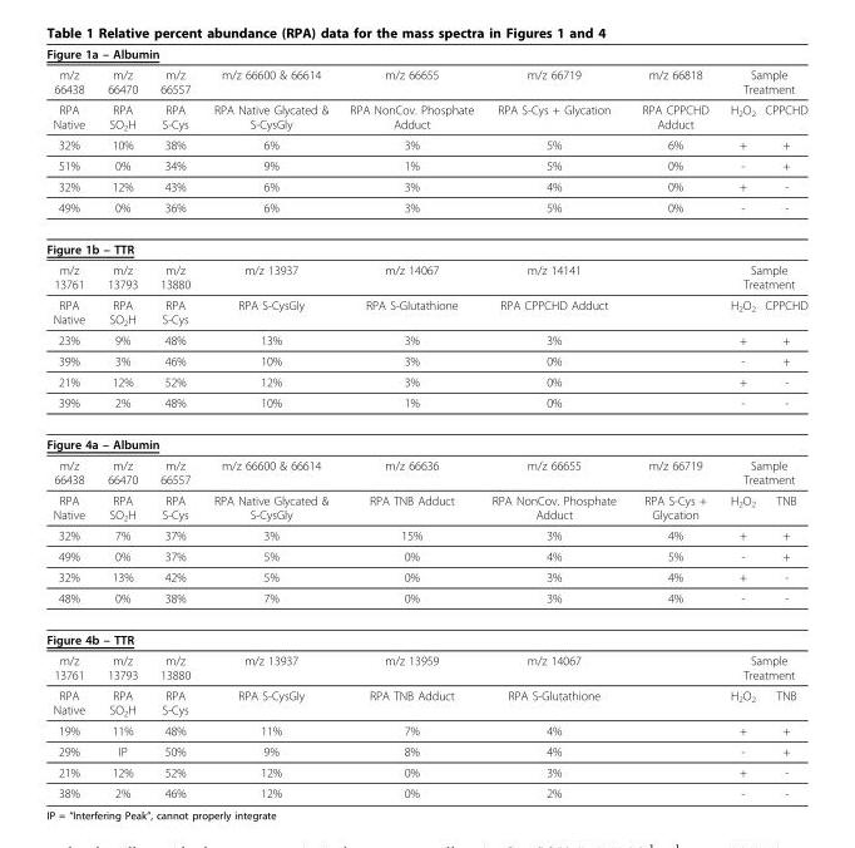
<table><thead><tr><td colspan="9">Figure 1a – Albumin</td></tr><tr><td rowspan="2">m/z 66438 RPA Native</td><td rowspan="2">m/z 66470 RPA SO2H</td><td rowspan="2">m/z 66557 RPA S-Cys</td><td rowspan="2">m/z 66600 &amp; 66614 RPA Native Glycated &amp; S-CysGly</td><td rowspan="2">m/z 66655 RPA NonCov. Phosphate Adduct</td><td rowspan="2">m/z 66719 RPA S-Cys + Glycation</td><td rowspan="2">m/z 66818 RPA CPPCHD Adduct</td><td colspan="2">Sample Treatment</td></tr><tr><td>H2O2</td><td>CPPCHD</td></tr></thead><tbody><tr><td>32%</td><td>10%</td><td>38%</td><td>6%</td><td>3%</td><td>5%</td><td>6%</td><td>+</td><td>+</td></tr><tr><td>51%</td><td>0%</td><td>34%</td><td>9%</td><td>1%</td><td>5%</td><td>0%</td><td>-</td><td>+</td></tr><tr><td>32%</td><td>12%</td><td>43%</td><td>6%</td><td>3%</td><td>4%</td><td>0%</td><td>+</td><td>-</td></tr><tr><td>49%</td><td>0%</td><td>36%</td><td>6%</td><td>3%</td><td>5%</td><td>0%</td><td>-</td><td>-</td></tr><tr><td colspan="9">Figure 1b – TTR</td></tr><tr><td>m/z 13761</td><td>m/z 13793</td><td>m/z 13880</td><td>m/z 13937</td><td>m/z 14067</td><td>m/z 14141</td><td></td><td colspan="2">Sample Treatment</td></tr><tr><td>RPA Native</td><td>RPA SO2H</td><td>RPA S-Cys</td><td>RPA S-CysGly</td><td>RPA S-Glutathione</td><td>RPA CPPCHD Adduct</td><td></td><td>H2O2</td><td>CPPCHD</td></tr><tr><td>23%</td><td>9%</td><td>48%</td><td>13%</td><td>3%</td><td>3%</td><td></td><td>+</td><td>+</td></tr><tr><td>39%</td><td>3%</td><td>46%</td><td>10%</td><td>3%</td><td>0%</td><td></td><td>-</td><td>+</td></tr><tr><td>21%</td><td>12%</td><td>52%</td><td>12%</td><td>3%</td><td>0%</td><td></td><td>+</td><td>-</td></tr><tr><td>39%</td><td>2%</td><td>48%</td><td>10%</td><td>1%</td><td>0%</td><td></td><td>-</td><td>-</td></tr><tr><td colspan="9">Figure 4a – Albumin</td></tr><tr><td>m/z 66438</td><td>m/z 66470</td><td>m/z 66557</td><td>m/z 66600 &amp; 66614</td><td>m/z 66636</td><td>m/z 66655</td><td>m/z 66719</td><td colspan="2">Sample Treatment</td></tr><tr><td>RPA Native</td><td>RPA SO2H</td><td>RPA S-Cys</td><td>RPA Native Glycated &amp; S-CysGly</td><td>RPA TNB Adduct</td><td>RPA NonCov. Phosphate Adduct</td><td>RPA S-Cys + Glycation</td><td>H2O2</td><td>TNB</td></tr><tr><td>32%</td><td>7%</td><td>37%</td><td>3%</td><td>15%</td><td>3%</td><td>4%</td><td>+</td><td>+</td></tr><tr><td>49%</td><td>0%</td><td>37%</td><td>5%</td><td>0%</td><td>4%</td><td>5%</td><td>-</td><td>+</td></tr><tr><td>32%</td><td>13%</td><td>42%</td><td>5%</td><td>0%</td><td>3%</td><td>4%</td><td>+</td><td>-</td></tr><tr><td>48%</td><td>0%</td><td>38%</td><td>7%</td><td>0%</td><td>3%</td><td>4%</td><td>-</td><td>-</td></tr><tr><td colspan="9">Figure 4b – TTR</td></tr><tr><td>m/z 13761</td><td>m/z 13793</td><td>m/z 13880</td><td>m/z 13937</td><td>m/z 13959</td><td>m/z 14067</td><td></td><td colspan="2">Sample Treatment</td></tr><tr><td>RPA Native</td><td>RPA SO2H</td><td>RPA S-Cys</td><td>RPA S-CysGly</td><td>RPA TNB Adduct</td><td>RPA S-Glutathione</td><td></td><td>H2O2</td><td>TNB</td></tr><tr><td>19%</td><td>11%</td><td>48%</td><td>11%</td><td>7%</td><td>4%</td><td></td><td>+</td><td>+</td></tr><tr><td>29%</td><td>IP</td><td>50%</td><td>9%</td><td>8%</td><td>4%</td><td></td><td>-</td><td>+</td></tr><tr><td>21%</td><td>12%</td><td>52%</td><td>12%</td><td>0%</td><td>3%</td><td></td><td>+</td><td>-</td></tr><tr><td>38%</td><td>2%</td><td>46%</td><td>12%</td><td>0%</td><td>2%</td><td></td><td>-</td><td>-</td></tr></tbody></table>